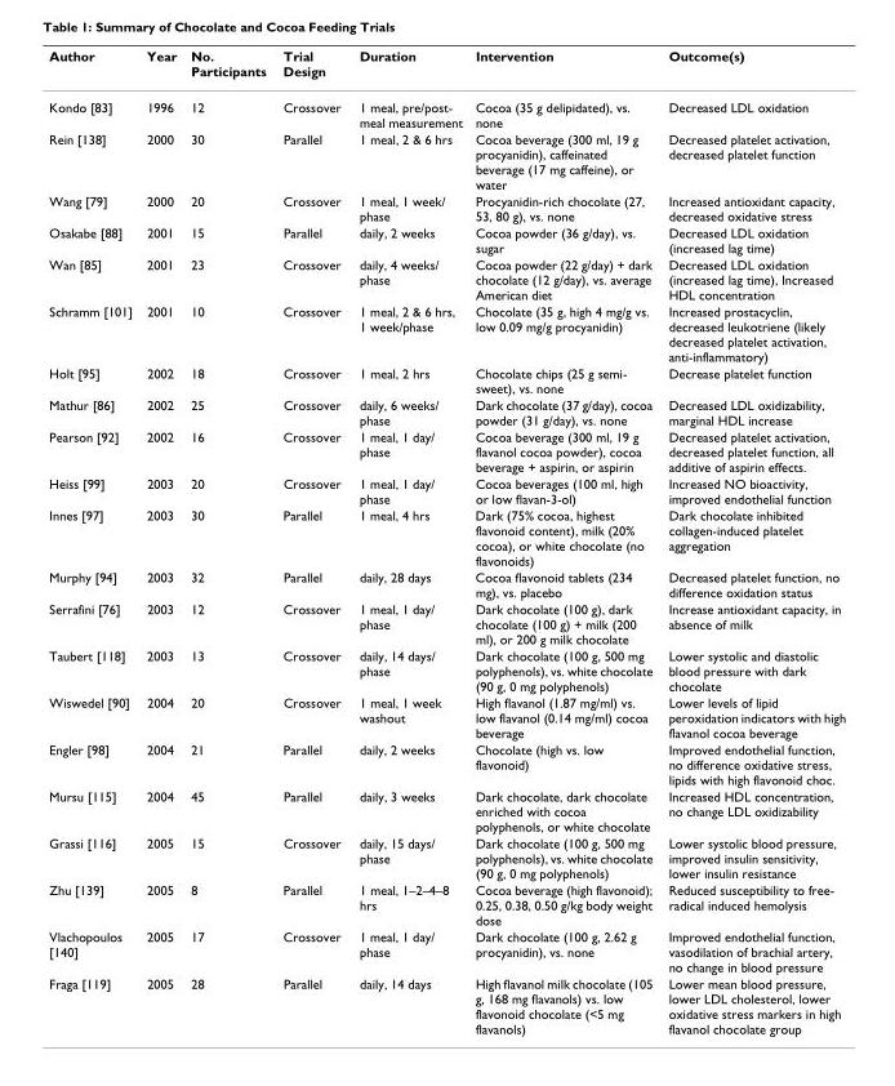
<table><thead><tr><td>Author</td><td>Year</td><td>No. Participants</td><td>Trial Design</td><td>Duration</td><td>Intervention</td><td>Outcome(s)</td></tr></thead><tbody><tr><td>Kondo [83]</td><td>1996</td><td>12</td><td>Crossover</td><td>1 meal, pre/post- meal measurement</td><td>Cocoa (35 g delipidated), vs. none</td><td>Decreased LDL oxidation</td></tr><tr><td>Rein [138]</td><td>2000</td><td>30</td><td>Parallel</td><td>1 meal, 2 &amp; 6 hrs</td><td>Cocoa beverage (300 ml, 19 g procyanidin), caffeinated beverage (17 mg caffeine), or water</td><td>Decreased platelet activation, decreased platelet function</td></tr><tr><td>Wang [79]</td><td>2000</td><td>20</td><td>Crossover</td><td>1 meal, 1 week/ phase</td><td>Procyanidin-rich chocolate (27, 53, 80 g), vs. none</td><td>Increased antioxidant capacity, decreased oxidative stress</td></tr><tr><td>Osakabe [88]</td><td>2001</td><td>15</td><td>Parallel</td><td>daily, 2 weeks</td><td>Cocoa powder (36 g/day), vs. sugar</td><td>Decreased LDL oxidation (increased lag time)</td></tr><tr><td>Wan [85]</td><td>2001</td><td>23</td><td>Crossover</td><td>daily, 4 weeks/ phase</td><td>Cocoa powder (22 g/day) + dark chocolate (12 g/day), vs. average American diet</td><td>Decreased LDL oxidation (increased lag time), Increased HDL concentration</td></tr><tr><td>Schramm [101]</td><td>2001</td><td>10</td><td>Crossover</td><td>1 meal, 2 &amp; 6 hrs, 1 week/phase</td><td>Chocolate (35 g, high 4 mg/g vs. low 0.09 mg/g procyanidin)</td><td>Increased prostacyclin, decreased leukotriene (likely decreased platelet activation, anti-inflammatory)</td></tr><tr><td>Holt [95]</td><td>2002</td><td>18</td><td>Crossover</td><td>1 meal, 2 hrs</td><td>Chocolate chips (25 g semi- sweet), vs. none</td><td>Decrease platelet function</td></tr><tr><td>Mathur [86]</td><td>2002</td><td>25</td><td>Crossover</td><td>daily, 6 weeks/ phase</td><td>Dark chocolate (37 g/day), cocoa powder (31 g/day), vs. none</td><td>Decreased LDL oxidizability, marginal HDL increase</td></tr><tr><td>Pearson [92]</td><td>2002</td><td>16</td><td>Crossover</td><td>1 meal, 1 day/ phase</td><td>Cocoa beverage (300 ml, 19 g flavanol cocoa powder), cocoa beverage + aspirin, or aspirin</td><td>Decreased platelet activation, decreased platelet function, all additive of aspirin effects.</td></tr><tr><td>Heiss [99]</td><td>2003</td><td>20</td><td>Crossover</td><td>1 meal, 1 day/ phase</td><td>Cocoa beverages (100 ml, high or low flavan-3-ol)</td><td>Increased NO bioactivity, improved endothelial function</td></tr><tr><td>Innes [97]</td><td>2003</td><td>30</td><td>Parallel</td><td>1 meal, 4 hrs</td><td>Dark (75% cocoa, highest flavonoid content), milk (20% cocoa), or white chocolate (no flavonoids)</td><td>Dark chocolate inhibited collagen-induced platelet aggregation</td></tr><tr><td>Murphy [94]</td><td>2003</td><td>32</td><td>Parallel</td><td>daily, 28 days</td><td>Cocoa flavonoid tablets (234 mg), vs. placebo</td><td>Decreased platelet function, no difference oxidation status</td></tr><tr><td>Serrafini [76]</td><td>2003</td><td>12</td><td>Crossover</td><td>1 meal, 1 day/ phase</td><td>Dark chocolate (100 g), dark chocolate (100 g) + milk (200 ml), or 200 g milk chocolate</td><td>Increase antioxidant capacity, in absence of milk</td></tr><tr><td>Taubert [118]</td><td>2003</td><td>13</td><td>Crossover</td><td>daily, 14 days/ phase</td><td>Dark chocolate (100 g, 500 mg polyphenols), vs. white chocolate (90 g, 0 mg polyphenols)</td><td>Lower systolic and diastolic blood pressure with dark chocolate</td></tr><tr><td>Wiswedel [90]</td><td>2004</td><td>20</td><td>Crossover</td><td>1 meal, 1 week washout</td><td>High flavanol (1.87 mg/ml) vs. low flavanol (0.14 mg/ml) cocoa beverage</td><td>Lower levels of lipid peroxidation indicators with high flavanol cocoa beverage</td></tr><tr><td>Engler [98]</td><td>2004</td><td>21</td><td>Parallel</td><td>daily, 2 weeks</td><td>Chocolate (high vs. low flavonoid)</td><td>Improved endothelial function, no difference oxidative stress, lipids with high flavonoid choc.</td></tr><tr><td>Mursu [115]</td><td>2004</td><td>45</td><td>Parallel</td><td>daily, 3 weeks</td><td>Dark chocolate, dark chocolate enriched with cocoa polyphenols, or white chocolate</td><td>Increased HDL concentration, no change LDL oxidizability</td></tr><tr><td>Grassi [116]</td><td>2005</td><td>15</td><td>Crossover</td><td>daily, 15 days/ phase</td><td>Dark chocolate (100 g, 500 mg polyphenols), vs. white chocolate (90 g, 0 mg polyphenols)</td><td>Lower systolic blood pressure, improved insulin sensitivity, lower insulin resistance</td></tr><tr><td>Zhu [139]</td><td>2005</td><td>8</td><td>Parallel</td><td>1 meal, 1–2–4–8 hrs</td><td>Cocoa beverage (high flavonoid); 0.25, 0.38, 0.50 g/kg body weight dose</td><td>Reduced susceptibility to free- radical induced hemolysis</td></tr><tr><td>Vlachopoulos [140]</td><td>2005</td><td>17</td><td>Crossover</td><td>1 meal, 1 day/ phase</td><td>Dark chocolate (100 g, 2.62 g procyanidin), vs. none</td><td>Improved endothelial function, vasodilation of brachial artery, no change in blood pressure</td></tr><tr><td>Fraga [119]</td><td>2005</td><td>28</td><td>Parallel</td><td>daily, 14 days</td><td>High flavanol milk chocolate (105 g, 168 mg flavanols) vs. low flavonoid chocolate (&lt;5 mg flavanols)</td><td>Lower mean blood pressure, lower LDL cholesterol, lower oxidative stress markers in high flavanol chocolate group</td></tr></tbody></table>